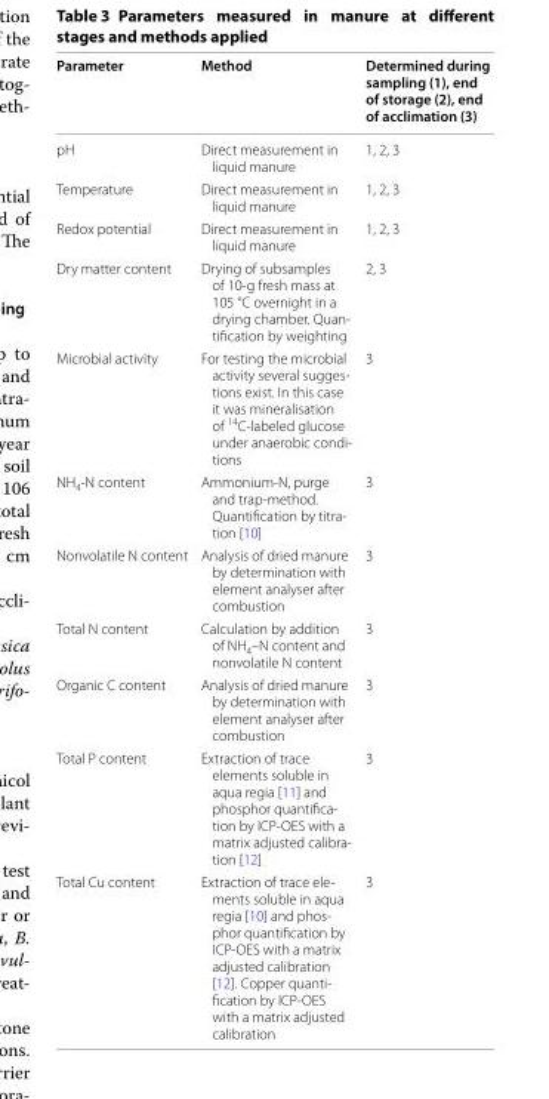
<table><thead><tr><td>Parameter</td><td>Method</td><td>Determined during sampling (1), end of storage (2), end of acclimation (3)</td></tr></thead><tbody><tr><td>pH</td><td>Direct measurement in liquid manure</td><td>1, 2, 3</td></tr><tr><td>Temperature</td><td>Direct measurement in liquid manure</td><td>1, 2, 3</td></tr><tr><td>Redox potential</td><td>Direct measurement in liquid manure</td><td>1, 2, 3</td></tr><tr><td>Dry matter content</td><td>Drying of subsamples of 10-g fresh mass at 105 °C overnight in a drying chamber. Quan- tification by weighting</td><td>2, 3</td></tr><tr><td>Microbial activity</td><td>For testing the microbial activity several sugges- tions exist. In this case it was mineralisation of 14C-labeled glucose under anaerobic condi- tions</td><td>3</td></tr><tr><td>NH<sub>4</sub>-N content</td><td>Ammonium-N, purge and trap-method. Quantification by titra- tion [10]</td><td>3</td></tr><tr><td>Nonvolatile N content</td><td>Analysis of dried manure by determination with element analyser after combustion</td><td>3</td></tr><tr><td>Total N content</td><td>Calculation by addition of NH<sub>4</sub>–N content and nonvolatile N content</td><td>3</td></tr><tr><td>Organic C content</td><td>Analysis of dried manure by determination with element analyser after combustion</td><td>3</td></tr><tr><td>Total P content</td><td>Extraction of trace elements soluble in aqua regia [11] and phosphor quantifica- tion by ICP-OES with a matrix adjusted calibra- tion [12]</td><td>3</td></tr><tr><td>Total Cu content</td><td>Extraction of trace ele- ments soluble in aqua regia [10] and phos- phor quantification by ICP-OES with a matrix adjusted calibration [12]. Copper quanti- fication by ICP-OES with a matrix adjusted calibration</td><td>3</td></tr></tbody></table>